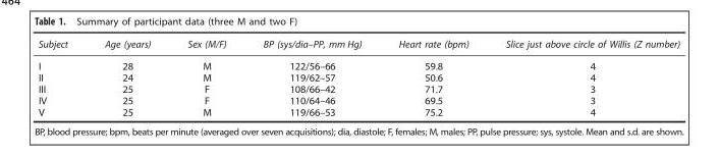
<table><thead><tr><td>Subject</td><td>Age (years)</td><td>Sex (M/F)</td><td>BP (sys/dia–PP, mm Hg)</td><td>Heart rate (bpm)</td><td>Slice just above circle of Willis (Z number)</td></tr></thead><tbody><tr><td>I</td><td>28</td><td>M</td><td>122/56–66</td><td>59.8</td><td>4</td></tr><tr><td>II</td><td>24</td><td>M</td><td>119/62–57</td><td>50.6</td><td>4</td></tr><tr><td>III</td><td>25</td><td>F</td><td>108/66–42</td><td>71.7</td><td>3</td></tr><tr><td>IV</td><td>25</td><td>F</td><td>110/64–46</td><td>69.5</td><td>3</td></tr><tr><td>V</td><td>25</td><td>M</td><td>119/66–53</td><td>75.2</td><td>4</td></tr></tbody></table>